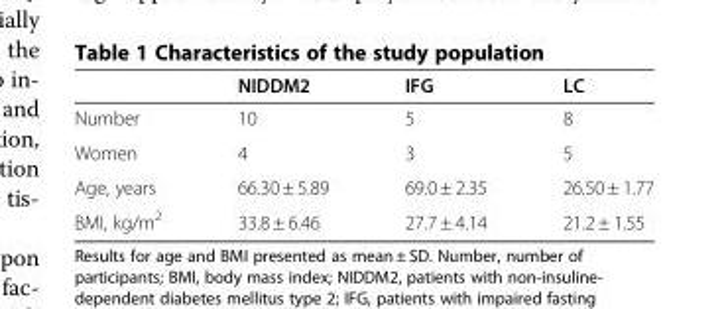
<table><thead><tr><td></td><td>NIDDM2</td><td>IFG</td><td>LC</td></tr></thead><tbody><tr><td>Number</td><td>10</td><td>5</td><td>8</td></tr><tr><td>Women</td><td>4</td><td>3</td><td>5</td></tr><tr><td>Age, years</td><td>66.30 ± 5.89</td><td>69.0 ± 2.35</td><td>26.50 ± 1.77</td></tr><tr><td>BMI, kg/m<sup>2</sup></td><td>33.8 ± 6.46</td><td>27.7 ± 4.14</td><td>21.2 ± 1.55</td></tr></tbody></table>